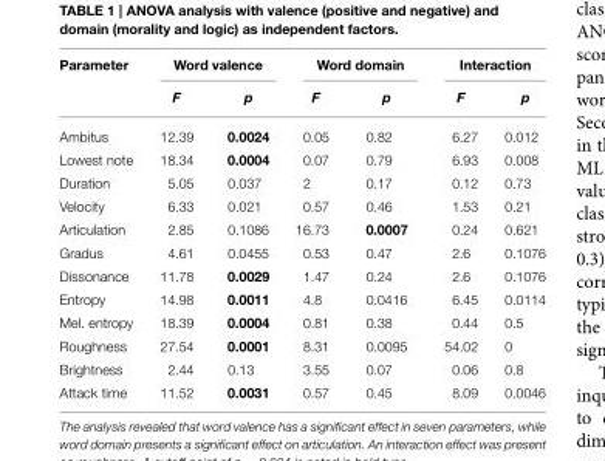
<table><thead><tr><td rowspan="2">Parameter</td><td colspan="2">Word valence</td><td colspan="2">Word domain</td><td colspan="2">Interaction</td></tr><tr><td>F</td><td>p</td><td>F</td><td>p</td><td>F</td><td>p</td></tr></thead><tbody><tr><td>Ambitus</td><td>12.39</td><td>0.0024</td><td>0.05</td><td>0.82</td><td>6.27</td><td>0.012</td></tr><tr><td>Lowest note</td><td>18.34</td><td>0.0004</td><td>0.07</td><td>0.79</td><td>6.93</td><td>0.008</td></tr><tr><td>Duration</td><td>5.05</td><td>0.037</td><td>2</td><td>0.17</td><td>0.12</td><td>0.73</td></tr><tr><td>Velocity</td><td>6.33</td><td>0.021</td><td>0.57</td><td>0.46</td><td>1.53</td><td>0.21</td></tr><tr><td>Articulation</td><td>2.85</td><td>0.1086</td><td>16.73</td><td>0.0007</td><td>0.24</td><td>0.621</td></tr><tr><td>Gradus</td><td>4.61</td><td>0.0455</td><td>0.53</td><td>0.47</td><td>2.6</td><td>0.1076</td></tr><tr><td>Dissonance</td><td>11.78</td><td>0.0029</td><td>1.47</td><td>0.24</td><td>2.6</td><td>0.1076</td></tr><tr><td>Entropy</td><td>14.98</td><td>0.0011</td><td>4.8</td><td>0.0416</td><td>6.45</td><td>0.0114</td></tr><tr><td>Mel. entropy</td><td>18.39</td><td>0.0004</td><td>0.81</td><td>0.38</td><td>0.44</td><td>0.5</td></tr><tr><td>Roughness</td><td>27.54</td><td>0.0001</td><td>8.31</td><td>0.0095</td><td>54.02</td><td>0</td></tr><tr><td>Brightness</td><td>2.44</td><td>0.13</td><td>3.55</td><td>0.07</td><td>0.06</td><td>0.8</td></tr><tr><td>Attack time</td><td>11.52</td><td>0.0031</td><td>0.57</td><td>0.45</td><td>8.09</td><td>0.0046</td></tr></tbody></table>